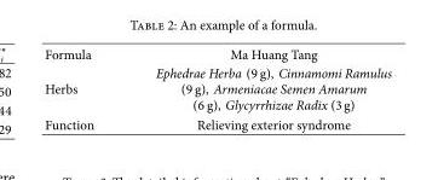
<table><tbody><tr><td>Formula</td><td>Ma Huang Tang</td></tr><tr><td>Herbs</td><td>Ephedrae Herba (9 g), Cinnamomi Ramulus (9 g), Armeniacae Semen Amarum (6 g), Glycyrrhizae Radix (3 g)</td></tr><tr><td>Function</td><td>Relieving exterior syndrome</td></tr></tbody></table>